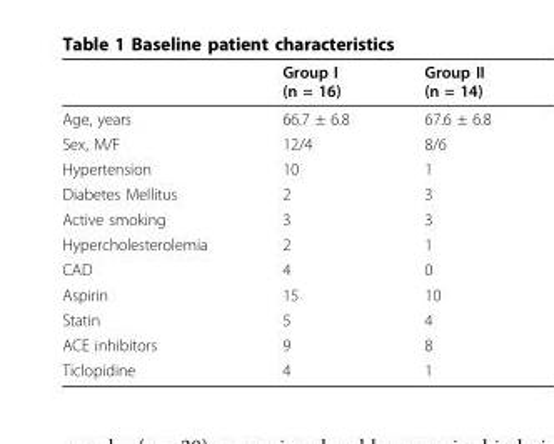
<table><thead><tr><td></td><td>Group I (n = 16)</td><td>Group II (n = 14)</td></tr></thead><tbody><tr><td>Age, years</td><td>66.7 ± 6.8</td><td>67.6 ± 6.8</td></tr><tr><td>Sex, M/F</td><td>12/4</td><td>8/6</td></tr><tr><td>Hypertension</td><td>10</td><td>1</td></tr><tr><td>Diabetes Mellitus</td><td>2</td><td>3</td></tr><tr><td>Active smoking</td><td>3</td><td>3</td></tr><tr><td>Hypercholesterolemia</td><td>2</td><td>1</td></tr><tr><td>CAD</td><td>4</td><td>0</td></tr><tr><td>Aspirin</td><td>15</td><td>10</td></tr><tr><td>Statin</td><td>5</td><td>4</td></tr><tr><td>ACE inhibitors</td><td>9</td><td>8</td></tr><tr><td>Ticlopidine</td><td>4</td><td>1</td></tr></tbody></table>